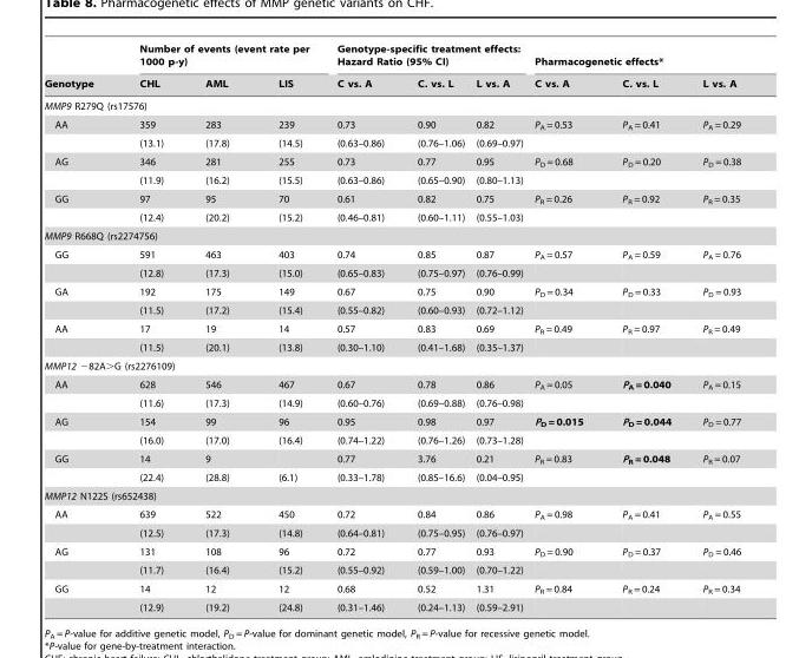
<table><thead><tr><td rowspan="2">Genotype</td><td colspan="3">Number of events (event rate per 1000 p-y)</td><td colspan="3">Genotype-specific treatment effects: Hazard Ratio (95% CI)</td><td colspan="3">Pharmacogenetic effects*</td></tr><tr><td>CHL</td><td>AML</td><td>LIS</td><td>C vs. A</td><td>C. vs. L</td><td>L vs. A</td><td>C vs. A</td><td>C. vs. L</td><td>L vs. A</td></tr></thead><tbody><tr><td colspan="10">MMP9 R279Q (rs17576)</td></tr><tr><td rowspan="2">AA</td><td>359</td><td>283</td><td>239</td><td>0.73</td><td>0.90</td><td>0.82</td><td>P<sub>A</sub> = 0.53</td><td>P<sub>A</sub> = 0.41</td><td>P<sub>A</sub> = 0.29</td></tr><tr><td>(13.1)</td><td>(17.8)</td><td>(14.5)</td><td>(0.63–0.86)</td><td>(0.76–1.06)</td><td>(0.69–0.97)</td><td></td><td></td><td></td></tr><tr><td rowspan="2">AG</td><td>346</td><td>281</td><td>255</td><td>0.73</td><td>0.77</td><td>0.95</td><td>P<sub>D</sub> = 0.68</td><td>P<sub>D</sub> = 0.20</td><td>P<sub>D</sub> = 0.38</td></tr><tr><td>(11.9)</td><td>(16.2)</td><td>(15.5)</td><td>(0.63–0.86)</td><td>(0.65–0.90)</td><td>(0.80–1.13)</td><td></td><td></td><td></td></tr><tr><td rowspan="2">GG</td><td>97</td><td>95</td><td>70</td><td>0.61</td><td>0.82</td><td>0.75</td><td>P<sub>R</sub> = 0.26</td><td>P<sub>R</sub> = 0.92</td><td>P<sub>R</sub> = 0.35</td></tr><tr><td>(12.4)</td><td>(20.2)</td><td>(15.2)</td><td>(0.46–0.81)</td><td>(0.60–1.11)</td><td>(0.55–1.03)</td><td></td><td></td><td></td></tr><tr><td colspan="10">MMP9 R668Q (rs2274756)</td></tr><tr><td rowspan="2">GG</td><td>591</td><td>463</td><td>403</td><td>0.74</td><td>0.85</td><td>0.87</td><td>P<sub>A</sub> = 0.57</td><td>P<sub>A</sub> = 0.59</td><td>P<sub>A</sub> = 0.76</td></tr><tr><td>(12.8)</td><td>(17.3)</td><td>(15.0)</td><td>(0.65–0.83)</td><td>(0.75–0.97)</td><td>(0.76–0.99)</td><td></td><td></td><td></td></tr><tr><td rowspan="2">GA</td><td>192</td><td>175</td><td>149</td><td>0.67</td><td>0.75</td><td>0.90</td><td>P<sub>D</sub> = 0.34</td><td>P<sub>D</sub> = 0.33</td><td>P<sub>D</sub> = 0.93</td></tr><tr><td>(11.5)</td><td>(17.2)</td><td>(15.4)</td><td>(0.55–0.82)</td><td>(0.60–0.93)</td><td>(0.72–1.12)</td><td></td><td></td><td></td></tr><tr><td rowspan="2">AA</td><td>17</td><td>19</td><td>14</td><td>0.57</td><td>0.83</td><td>0.69</td><td>P<sub>R</sub> = 0.49</td><td>P<sub>R</sub> = 0.97</td><td>P<sub>R</sub> = 0.49</td></tr><tr><td>(11.5)</td><td>(20.1)</td><td>(13.8)</td><td>(0.30–1.10)</td><td>(0.41–1.68)</td><td>(0.35–1.37)</td><td></td><td></td><td></td></tr><tr><td colspan="10">MMP12 −82A&gt;G (rs2276109)</td></tr><tr><td rowspan="2">AA</td><td>628</td><td>546</td><td>467</td><td>0.67</td><td>0.78</td><td>0.86</td><td>P<sub>A</sub> = 0.05</td><td>P<sub>A</sub> = 0.040</td><td>P<sub>A</sub> = 0.15</td></tr><tr><td>(11.6)</td><td>(17.3)</td><td>(14.9)</td><td>(0.60–0.76)</td><td>(0.69–0.88)</td><td>(0.76–0.98)</td><td></td><td></td><td></td></tr><tr><td rowspan="2">AG</td><td>154</td><td>99</td><td>96</td><td>0.95</td><td>0.98</td><td>0.97</td><td>P<sub>D</sub> = 0.015</td><td>P<sub>D</sub> = 0.044</td><td>P<sub>D</sub> = 0.77</td></tr><tr><td>(16.0)</td><td>(17.0)</td><td>(16.4)</td><td>(0.74–1.22)</td><td>(0.76–1.26)</td><td>(0.73–1.28)</td><td></td><td></td><td></td></tr><tr><td rowspan="2">GG</td><td>14</td><td>9</td><td></td><td>0.77</td><td>3.76</td><td>0.21</td><td>P<sub>R</sub> = 0.83</td><td>P<sub>R</sub> = 0.048</td><td>P<sub>R</sub> = 0.07</td></tr><tr><td>(22.4)</td><td>(28.8)</td><td>(6.1)</td><td>(0.33–1.78)</td><td>(0.85–16.6)</td><td>(0.04–0.95)</td><td></td><td></td><td></td></tr><tr><td colspan="10">MMP12 N122S (rs652438)</td></tr><tr><td rowspan="2">AA</td><td>639</td><td>522</td><td>450</td><td>0.72</td><td>0.84</td><td>0.86</td><td>P<sub>A</sub> = 0.98</td><td>P<sub>A</sub> = 0.41</td><td>P<sub>A</sub> = 0.55</td></tr><tr><td>(12.5)</td><td>(17.3)</td><td>(14.8)</td><td>(0.64–0.81)</td><td>(0.75–0.95)</td><td>(0.76–0.97)</td><td></td><td></td><td></td></tr><tr><td rowspan="2">AG</td><td>131</td><td>108</td><td>96</td><td>0.72</td><td>0.77</td><td>0.93</td><td>P<sub>D</sub> = 0.90</td><td>P<sub>D</sub> = 0.37</td><td>P<sub>D</sub> = 0.46</td></tr><tr><td>(11.7)</td><td>(16.4)</td><td>(15.2)</td><td>(0.55–0.92)</td><td>(0.59–1.00)</td><td>(0.70–1.22)</td><td></td><td></td><td></td></tr><tr><td rowspan="2">GG</td><td>14</td><td>12</td><td>12</td><td>0.68</td><td>0.52</td><td>1.31</td><td>P<sub>R</sub> = 0.84</td><td>P<sub>R</sub> = 0.24</td><td>P<sub>R</sub> = 0.34</td></tr><tr><td>(12.9)</td><td>(19.2)</td><td>(24.8)</td><td>(0.31–1.46)</td><td>(0.24–1.13)</td><td>(0.59–2.91)</td><td></td><td></td><td></td></tr></tbody></table>